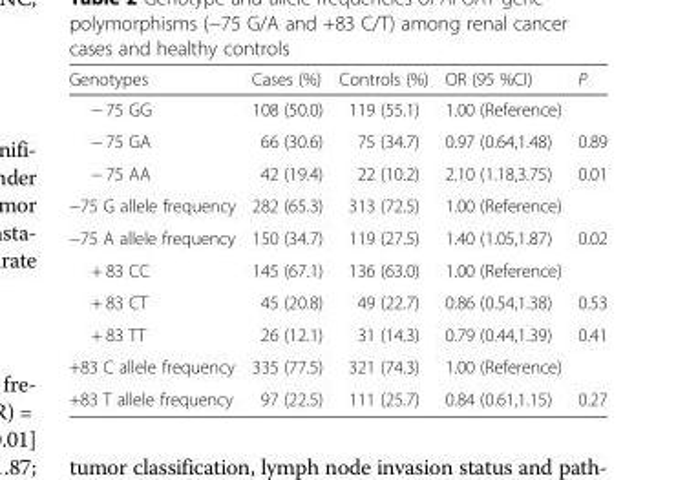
<table><thead><tr><td>Genotypes</td><td>Cases (%)</td><td>Controls (%)</td><td>OR (95 %CI)</td><td>P</td></tr></thead><tbody><tr><td>− 75 GG</td><td>108 (50.0)</td><td>119 (55.1)</td><td>1.00 (Reference)</td><td></td></tr><tr><td>− 75 GA</td><td>66 (30.6)</td><td>75 (34.7)</td><td>0.97 (0.64,1.48)</td><td>0.89</td></tr><tr><td>− 75 AA</td><td>42 (19.4)</td><td>22 (10.2)</td><td>2.10 (1.18,3.75)</td><td>0.01</td></tr><tr><td>−75 G allele frequency</td><td>282 (65.3)</td><td>313 (72.5)</td><td>1.00 (Reference)</td><td></td></tr><tr><td>−75 A allele frequency</td><td>150 (34.7)</td><td>119 (27.5)</td><td>1.40 (1.05,1.87)</td><td>0.02</td></tr><tr><td>+ 83 CC</td><td>145 (67.1)</td><td>136 (63.0)</td><td>1.00 (Reference)</td><td></td></tr><tr><td>+ 83 CT</td><td>45 (20.8)</td><td>49 (22.7)</td><td>0.86 (0.54,1.38)</td><td>0.53</td></tr><tr><td>+ 83 TT</td><td>26 (12.1)</td><td>31 (14.3)</td><td>0.79 (0.44,1.39)</td><td>0.41</td></tr><tr><td>+83 C allele frequency</td><td>335 (77.5)</td><td>321 (74.3)</td><td>1.00 (Reference)</td><td></td></tr><tr><td>+83 T allele frequency</td><td>97 (22.5)</td><td>111 (25.7)</td><td>0.84 (0.61,1.15)</td><td>0.27</td></tr></tbody></table>